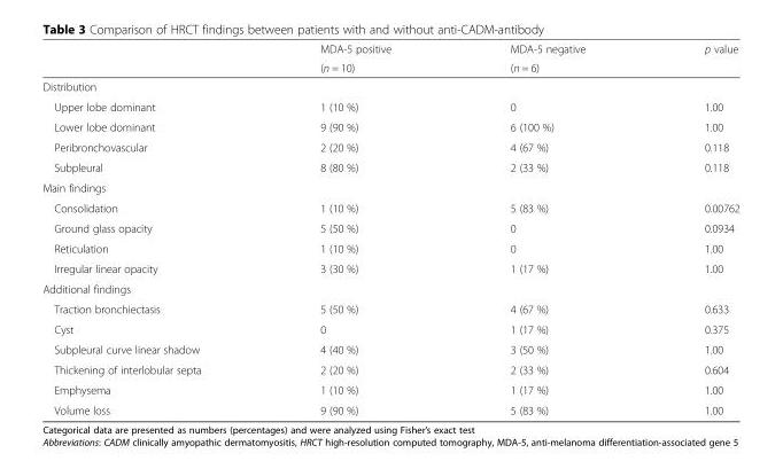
<table><thead><tr><td rowspan="2"></td><td rowspan="2">MDA-5 positive (n = 10)</td><td rowspan="2">MDA-5 negative (n = 6)</td><td rowspan="2">p value</td></tr><tr></tr></thead><tbody><tr><td colspan="4">Distribution</td></tr><tr><td>Upper lobe dominant</td><td>1 (10 %)</td><td>0</td><td>1.00</td></tr><tr><td>Lower lobe dominant</td><td>9 (90 %)</td><td>6 (100 %)</td><td>1.00</td></tr><tr><td>Peribronchovascular</td><td>2 (20 %)</td><td>4 (67 %)</td><td>0.118</td></tr><tr><td>Subpleural</td><td>8 (80 %)</td><td>2 (33 %)</td><td>0.118</td></tr><tr><td colspan="4">Main findings</td></tr><tr><td>Consolidation</td><td>1 (10 %)</td><td>5 (83 %)</td><td>0.00762</td></tr><tr><td>Ground glass opacity</td><td>5 (50 %)</td><td>0</td><td>0.0934</td></tr><tr><td>Reticulation</td><td>1 (10 %)</td><td>0</td><td>1.00</td></tr><tr><td>Irregular linear opacity</td><td>3 (30 %)</td><td>1 (17 %)</td><td>1.00</td></tr><tr><td colspan="4">Additional findings</td></tr><tr><td>Traction bronchiectasis</td><td>5 (50 %)</td><td>4 (67 %)</td><td>0.633</td></tr><tr><td>Cyst</td><td>0</td><td>1 (17 %)</td><td>0.375</td></tr><tr><td>Subpleural curve linear shadow</td><td>4 (40 %)</td><td>3 (50 %)</td><td>1.00</td></tr><tr><td>Thickening of interlobular septa</td><td>2 (20 %)</td><td>2 (33 %)</td><td>0.604</td></tr><tr><td>Emphysema</td><td>1 (10 %)</td><td>1 (17 %)</td><td>1.00</td></tr><tr><td>Volume loss</td><td>9 (90 %)</td><td>5 (83 %)</td><td>1.00</td></tr></tbody></table>